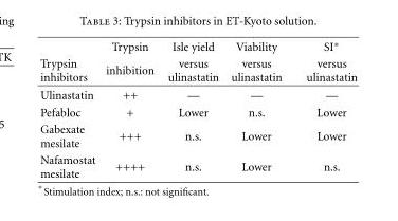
<table><thead><tr><td rowspan="2">Trypsin inhibitors</td><td rowspan="2">Trypsin inhibition</td><td rowspan="2">Isle yield versus ulinastatin</td><td rowspan="2">Viability versus ulinastatin</td><td rowspan="2">SI∗ versus ulinastatin</td></tr><tr></tr></thead><tbody><tr><td>Ulinastatin</td><td>++</td><td>—</td><td>—</td><td>—</td></tr><tr><td>Pefabloc</td><td>+</td><td>Lower</td><td>n.s.</td><td>Lower</td></tr><tr><td>Gabexate mesilate</td><td>+++</td><td>n.s.</td><td>Lower</td><td>Lower</td></tr><tr><td>Nafamostat mesilate</td><td>++++</td><td>n.s.</td><td>Lower</td><td>n.s.</td></tr></tbody></table>